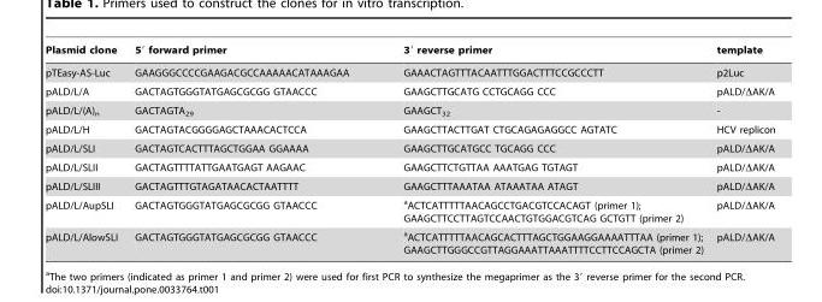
<table><thead><tr><td>Plasmid clone</td><td>5′ forward primer</td><td>3′ reverse primer</td><td>template</td></tr></thead><tbody><tr><td>pTEasy-AS-Luc</td><td>GAAGGGCCCCGAAGACGCCAAAAACATAAAGAA</td><td>GAAACTAGTTTACAATTTGGACTTTCCGCCCTT</td><td>p2Luc</td></tr><tr><td>pALD/L/A</td><td>GACTAGTGGGTATGAGCGCGG GTAACCC</td><td>GAAGCTTGCATG CCTGCAGG CCC</td><td>pALD/ΔAK/A</td></tr><tr><td>pALD/L/(A)<sub>n</sub></td><td>GACTAGTA<sub>29</sub></td><td>GAAGCT<sub>32</sub></td><td>-</td></tr><tr><td>pALD/L/H</td><td>GACTAGTACGGGGAGCTAAACACTCCA</td><td>GAAGCTTACTTGAT CTGCAGAGAGGCC AGTATC</td><td>HCV replicon</td></tr><tr><td>pALD/L/SLI</td><td>GACTAGTCACTTTAGCTGGAA GGAAAA</td><td>GAAGCTTGCATGCC TGCAGG CCC</td><td>pALD/ΔAK/A</td></tr><tr><td>pALD/L/SLII</td><td>GACTAGTTTTATTGAATGAGT AAGAAC</td><td>GAAGCTTCTGTTAA AAATGAG TGTAGT</td><td>pALD/ΔAK/A</td></tr><tr><td>pALD/L/SLIII</td><td>GACTAGTTTGTAGATAACACTAATTTT</td><td>GAAGCTTTAAATAA ATAAATAA ATAGT</td><td>pALD/ΔAK/A</td></tr><tr><td>pALD/L/AupSLI</td><td>GACTAGTGGGTATGAGCGCGG GTAACCC</td><td>aACTCATTTTTAACAGCCTGACGTCCACAGT (primer 1); GAAGCTTCCTTAGTCCAACTGTGGACGTCAG GCTGTT (primer 2)</td><td>pALD/ΔAK/A</td></tr><tr><td>pALD/L/AlowSLI</td><td>GACTAGTGGGTATGAGCGCGG GTAACCC</td><td>aACTCATTTTTAACAGCACTTTAGCTGGAAGGAAAATTTAA (primer 1); GAAGCTTGGGCCGTTAGGAAATTAAATTTTCCTTCCAGCTA (primer 2)</td><td>pALD/ΔAK/A</td></tr></tbody></table>